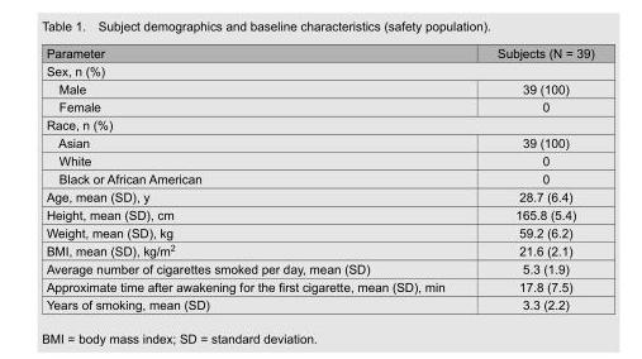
<table><thead><tr><td>Parameter</td><td>Subjects (N = 39)</td></tr></thead><tbody><tr><td colspan="2">Sex, n (%)</td></tr><tr><td>Male</td><td>39 (100)</td></tr><tr><td>Female</td><td>0</td></tr><tr><td colspan="2">Race, n (%)</td></tr><tr><td>Asian</td><td>39 (100)</td></tr><tr><td>White</td><td>0</td></tr><tr><td>Black or African American</td><td>0</td></tr><tr><td>Age, mean (SD), y</td><td>28.7 (6.4)</td></tr><tr><td>Height, mean (SD), cm</td><td>165.8 (5.4)</td></tr><tr><td>Weight, mean (SD), kg</td><td>59.2 (6.2)</td></tr><tr><td>BMI, mean (SD), kg/m<sup>2</sup></td><td>21.6 (2.1)</td></tr><tr><td>Average number of cigarettes smoked per day, mean (SD)</td><td>5.3 (1.9)</td></tr><tr><td>Approximate time after awakening for the first cigarette, mean (SD), min</td><td>17.8 (7.5)</td></tr><tr><td>Years of smoking, mean (SD)</td><td>3.3 (2.2)</td></tr></tbody></table>